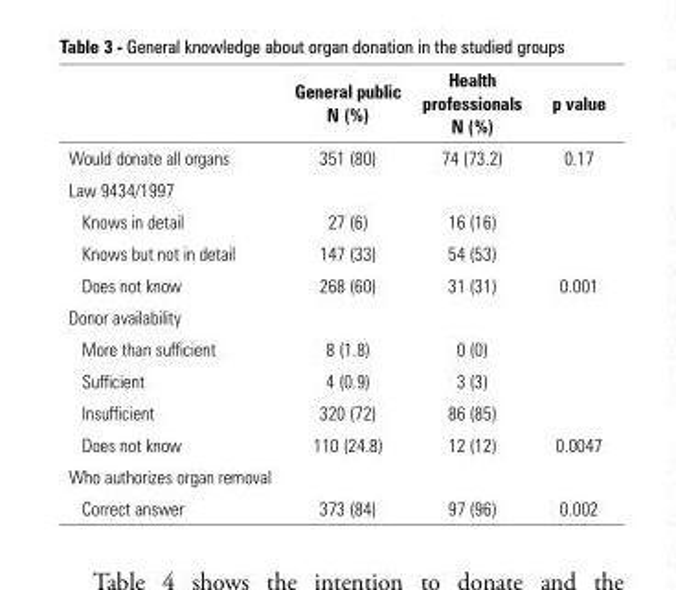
<table><thead><tr><td></td><td>General public N (%)</td><td>Health professionals N (%)</td><td>p value</td></tr></thead><tbody><tr><td>Would donate all organs</td><td>351 (80)</td><td>74 (73.2)</td><td>0.17</td></tr><tr><td colspan="4">Law 9434/1997</td></tr><tr><td>Knows in detail</td><td>27 (6)</td><td>16 (16)</td><td></td></tr><tr><td>Knows but not in detail</td><td>147 (33)</td><td>54 (53)</td><td></td></tr><tr><td>Does not know</td><td>268 (60)</td><td>31 (31)</td><td>0.001</td></tr><tr><td colspan="4">Donor availability</td></tr><tr><td>More than sufficient</td><td>8 (1.8)</td><td>0 (0)</td><td></td></tr><tr><td>Sufficient</td><td>4 (0.9)</td><td>3 (3)</td><td></td></tr><tr><td>Insufficient</td><td>320 (72)</td><td>86 (85)</td><td></td></tr><tr><td>Does not know</td><td>110 (24.8)</td><td>12 (12)</td><td>0.0047</td></tr><tr><td colspan="4">Who authorizes organ removal</td></tr><tr><td>Correct answer</td><td>373 (84)</td><td>97 (96)</td><td>0.002</td></tr></tbody></table>